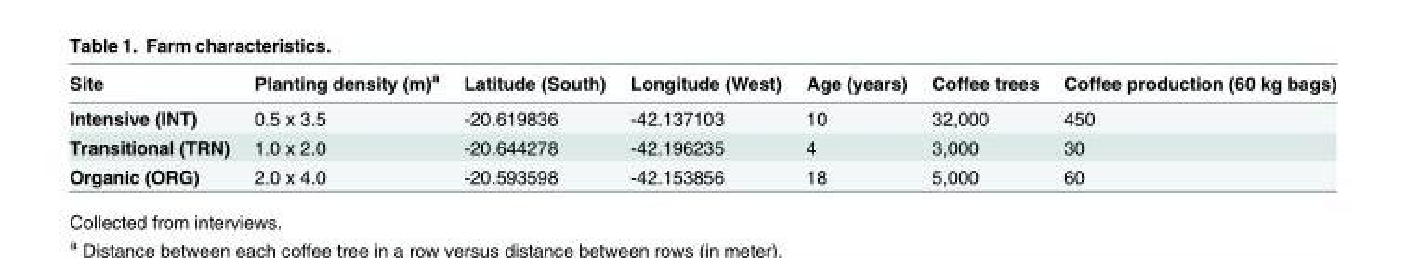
<table><thead><tr><td>Site</td><td>Planting density (m)<sup>a</sup></td><td>Latitude (South)</td><td>Longitude (West)</td><td>Age (years)</td><td>Coffee trees</td><td>Coffee production (60 kg bags)</td></tr></thead><tbody><tr><td>Intensive (INT)</td><td>0.5 x 3.5</td><td>-20.619836</td><td>-42.137103</td><td>10</td><td>32,000</td><td>450</td></tr><tr><td>Transitional (TRN)</td><td>1.0 x 2.0</td><td>-20.644278</td><td>-42.196235</td><td>4</td><td>3,000</td><td>30</td></tr><tr><td>Organic (ORG)</td><td>2.0 x 4.0</td><td>-20.593598</td><td>-42.153856</td><td>18</td><td>5,000</td><td>60</td></tr></tbody></table>